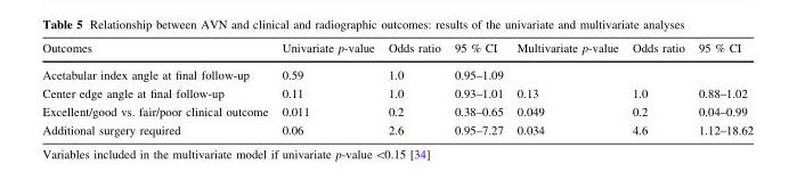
<table><thead><tr><td>Outcomes</td><td>Univariate p-value</td><td>Odds ratio</td><td>95 % CI</td><td>Multivariate p-value</td><td>Odds ratio</td><td>95 % CI</td></tr></thead><tbody><tr><td>Acetabular index angle at final follow-up</td><td>0.59</td><td>1.0</td><td>0.95–1.09</td><td></td><td></td><td></td></tr><tr><td>Center edge angle at final follow-up</td><td>0.11</td><td>1.0</td><td>0.93–1.01</td><td>0.13</td><td>1.0</td><td>0.88–1.02</td></tr><tr><td>Excellent/good vs. fair/poor clinical outcome</td><td>0.011</td><td>0.2</td><td>0.38–0.65</td><td>0.049</td><td>0.2</td><td>0.04–0.99</td></tr><tr><td>Additional surgery required</td><td>0.06</td><td>2.6</td><td>0.95–7.27</td><td>0.034</td><td>4.6</td><td>1.12–18.62</td></tr></tbody></table>